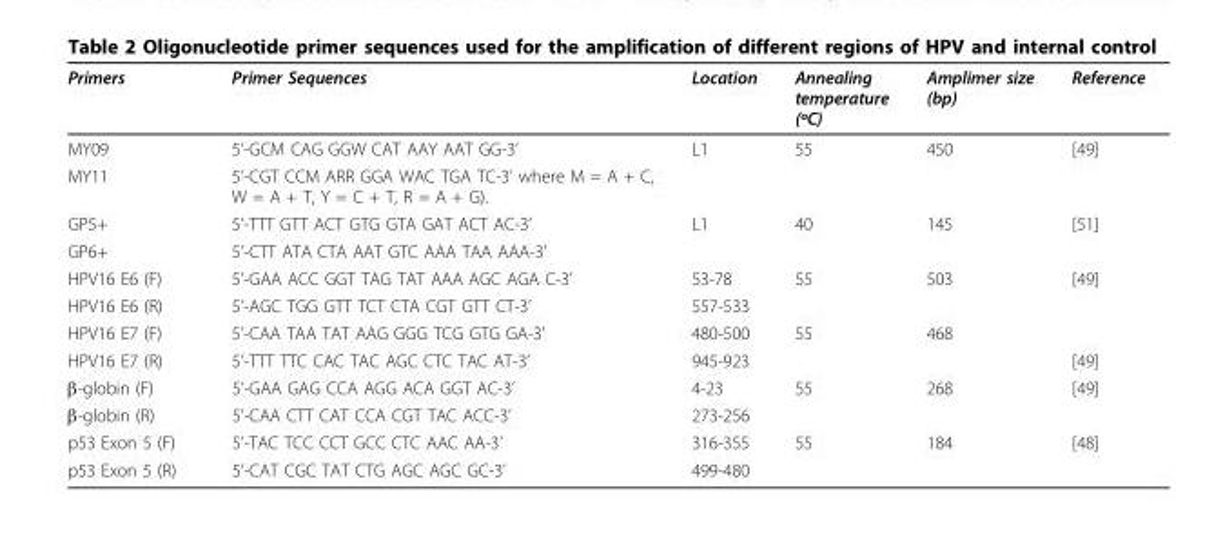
<table><thead><tr><td>Primers</td><td>Primer Sequences</td><td>Location</td><td>Annealing temperature (ºC)</td><td>Amplimer size (bp)</td><td>Reference</td></tr></thead><tbody><tr><td>MY09</td><td>5’-GCM CAG GGW CAT AAY AAT GG-3’</td><td>L1</td><td>55</td><td>450</td><td>[49]</td></tr><tr><td>MY11</td><td>5’-CGT CCM ARR GGA WAC TGA TC-3’ where M = A + C, W = A + T, Y = C + T, R = A + G).</td><td></td><td></td><td></td><td></td></tr><tr><td>GP5+</td><td>5’-TTT GTT ACT GTG GTA GAT ACT AC-3’</td><td>L1</td><td>40</td><td>145</td><td>[51]</td></tr><tr><td>GP6+</td><td>5’-CTT ATA CTA AAT GTC AAA TAA AAA-3’</td><td></td><td></td><td></td><td></td></tr><tr><td>HPV16 E6 (F)</td><td>5’-GAA ACC GGT TAG TAT AAA AGC AGA C-3’</td><td>53-78</td><td>55</td><td>503</td><td>[49]</td></tr><tr><td>HPV16 E6 (R)</td><td>5’-AGC TGG GTT TCT CTA CGT GTT CT-3’</td><td>557-533</td><td></td><td></td><td></td></tr><tr><td>HPV16 E7 (F)</td><td>5’-CAA TAA TAT AAG GGG TCG GTG GA-3’</td><td>480-500</td><td>55</td><td>468</td><td></td></tr><tr><td>HPV16 E7 (R)</td><td>5’-TTT TTC CAC TAC AGC CTC TAC AT-3’</td><td>945-923</td><td></td><td></td><td>[49]</td></tr><tr><td>β-globin (F)</td><td>5’-GAA GAG CCA AGG ACA GGT AC-3’</td><td>4-23</td><td>55</td><td>268</td><td>[49]</td></tr><tr><td>β-globin (R)</td><td>5’-CAA CTT CAT CCA CGT TAC ACC-3’</td><td>273-256</td><td></td><td></td><td></td></tr><tr><td>p53 Exon 5 (F)</td><td>5’-TAC TCC CCT GCC CTC AAC AA-3’</td><td>316-355</td><td>55</td><td>184</td><td>[48]</td></tr><tr><td>p53 Exon 5 (R)</td><td>5’-CAT CGC TAT CTG AGC AGC GC-3’</td><td>499-480</td><td></td><td></td><td></td></tr></tbody></table>